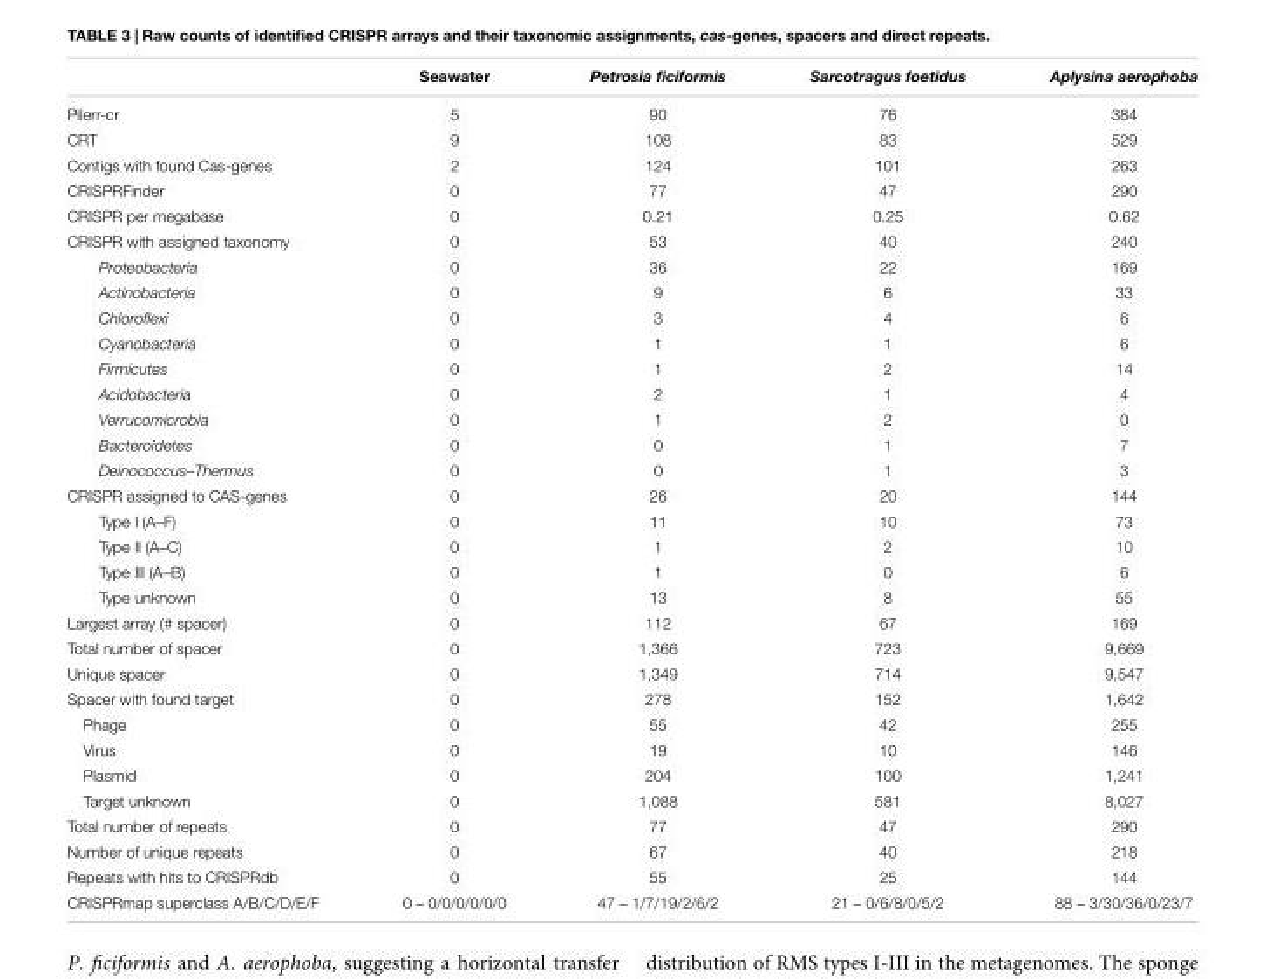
<table><thead><tr><td></td><td>Seawater</td><td>Petrosia ficiformis</td><td>Sarcotragus foetidus</td><td>Aplysina aerophoba</td></tr></thead><tbody><tr><td>Pilerr-cr</td><td>5</td><td>90</td><td>76</td><td>384</td></tr><tr><td>CRT</td><td>9</td><td>108</td><td>83</td><td>529</td></tr><tr><td>Contigs with found Cas-genes</td><td>2</td><td>124</td><td>101</td><td>263</td></tr><tr><td>CRISPRFinder</td><td>0</td><td>77</td><td>47</td><td>290</td></tr><tr><td>CRISPR per megabase</td><td>0</td><td>0.21</td><td>0.25</td><td>0.62</td></tr><tr><td>CRISPR with assigned taxonomy</td><td>0</td><td>53</td><td>40</td><td>240</td></tr><tr><td>Proteobacteria</td><td>0</td><td>36</td><td>22</td><td>169</td></tr><tr><td>Actinobacteria</td><td>0</td><td>9</td><td>6</td><td>33</td></tr><tr><td>Chloroflexi</td><td>0</td><td>3</td><td>4</td><td>6</td></tr><tr><td>Cyanobacteria</td><td>0</td><td>1</td><td>1</td><td>6</td></tr><tr><td>Firmicutes</td><td>0</td><td>1</td><td>2</td><td>14</td></tr><tr><td>Acidobacteria</td><td>0</td><td>2</td><td>1</td><td>4</td></tr><tr><td>Verrucomicrobia</td><td>0</td><td>1</td><td>2</td><td>0</td></tr><tr><td>Bacteroidetes</td><td>0</td><td>0</td><td>1</td><td>7</td></tr><tr><td>Deinococcus–Thermus</td><td>0</td><td>0</td><td>1</td><td>3</td></tr><tr><td>CRISPR assigned to CAS-genes</td><td>0</td><td>26</td><td>20</td><td>144</td></tr><tr><td>Type I (A–F)</td><td>0</td><td>11</td><td>10</td><td>73</td></tr><tr><td>Type II (A–C)</td><td>0</td><td>1</td><td>2</td><td>10</td></tr><tr><td>Type III (A–B)</td><td>0</td><td>1</td><td>0</td><td>6</td></tr><tr><td>Type unknown</td><td>0</td><td>13</td><td>8</td><td>55</td></tr><tr><td>Largest array (# spacer)</td><td>0</td><td>112</td><td>67</td><td>169</td></tr><tr><td>Total number of spacer</td><td>0</td><td>1,366</td><td>723</td><td>9,669</td></tr><tr><td>Unique spacer</td><td>0</td><td>1,349</td><td>714</td><td>9,547</td></tr><tr><td>Spacer with found target</td><td>0</td><td>278</td><td>152</td><td>1,642</td></tr><tr><td>Phage</td><td>0</td><td>55</td><td>42</td><td>255</td></tr><tr><td>Virus</td><td>0</td><td>19</td><td>10</td><td>146</td></tr><tr><td>Plasmid</td><td>0</td><td>204</td><td>100</td><td>1,241</td></tr><tr><td>Target unknown</td><td>0</td><td>1,088</td><td>581</td><td>8,027</td></tr><tr><td>Total number of repeats</td><td>0</td><td>77</td><td>47</td><td>290</td></tr><tr><td>Number of unique repeats</td><td>0</td><td>67</td><td>40</td><td>218</td></tr><tr><td>Repeats with hits to CRISPRdb</td><td>0</td><td>55</td><td>25</td><td>144</td></tr><tr><td>CRISPRmap superclass A/B/C/D/E/F</td><td>0 – 0/0/0/0/0/0</td><td>47 – 1/7/19/2/6/2</td><td>21 – 0/6/8/0/5/2</td><td>88 – 3/30/36/0/23/7</td></tr></tbody></table>